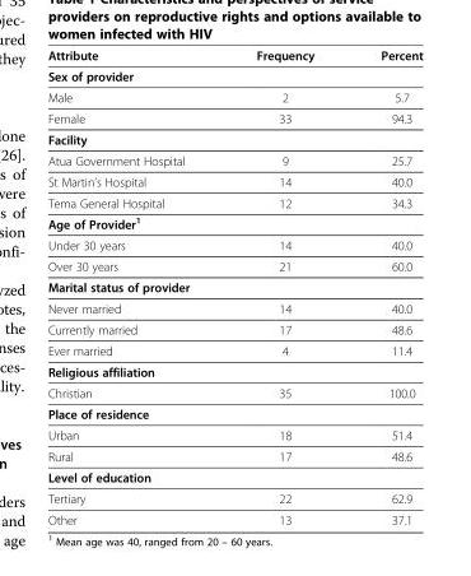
<table><thead><tr><td>Attribute</td><td>Frequency</td><td>Percent</td></tr></thead><tbody><tr><td colspan="3">Sex of provider</td></tr><tr><td>Male</td><td>2</td><td>5.7</td></tr><tr><td>Female</td><td>33</td><td>94.3</td></tr><tr><td colspan="3">Facility</td></tr><tr><td>Atua Government Hospital</td><td>9</td><td>25.7</td></tr><tr><td>St Martin’s Hospital</td><td>14</td><td>40.0</td></tr><tr><td>Tema General Hospital</td><td>12</td><td>34.3</td></tr><tr><td colspan="3">Age of Provider<sup>1</sup></td></tr><tr><td>Under 30 years</td><td>14</td><td>40.0</td></tr><tr><td>Over 30 years</td><td>21</td><td>60.0</td></tr><tr><td colspan="3">Marital status of provider</td></tr><tr><td>Never married</td><td>14</td><td>40.0</td></tr><tr><td>Currently married</td><td>17</td><td>48.6</td></tr><tr><td>Ever married</td><td>4</td><td>11.4</td></tr><tr><td colspan="3">Religious affiliation</td></tr><tr><td>Christian</td><td>35</td><td>100.0</td></tr><tr><td colspan="3">Place of residence</td></tr><tr><td>Urban</td><td>18</td><td>51.4</td></tr><tr><td>Rural</td><td>17</td><td>48.6</td></tr><tr><td colspan="3">Level of education</td></tr><tr><td>Tertiary</td><td>22</td><td>62.9</td></tr><tr><td>Other</td><td>13</td><td>37.1</td></tr></tbody></table>